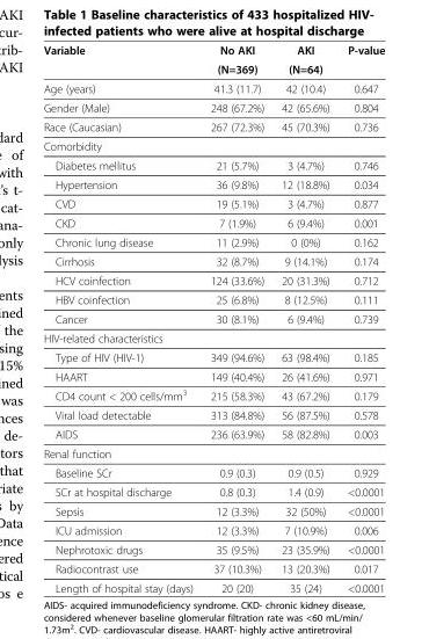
<table><thead><tr><td rowspan="2">Variable</td><td rowspan="2">No AKI (N=369)</td><td rowspan="2">AKI (N=64)</td><td rowspan="2">P-value</td></tr><tr></tr></thead><tbody><tr><td>Age (years)</td><td>41.3 (11.7)</td><td>42 (10.4)</td><td>0.647</td></tr><tr><td>Gender (Male)</td><td>248 (67.2%)</td><td>42 (65.6%)</td><td>0.804</td></tr><tr><td>Race (Caucasian)</td><td>267 (72.3%)</td><td>45 (70.3%)</td><td>0.736</td></tr><tr><td colspan="4">Comorbidity</td></tr><tr><td>Diabetes mellitus</td><td>21 (5.7%)</td><td>3 (4.7%)</td><td>0.746</td></tr><tr><td>Hypertension</td><td>36 (9.8%)</td><td>12 (18.8%)</td><td>0.034</td></tr><tr><td>CVD</td><td>19 (5.1%)</td><td>3 (4.7%)</td><td>0.877</td></tr><tr><td>CKD</td><td>7 (1.9%)</td><td>6 (9.4%)</td><td>0.001</td></tr><tr><td>Chronic lung disease</td><td>11 (2.9%)</td><td>0 (0%)</td><td>0.162</td></tr><tr><td>Cirrhosis</td><td>32 (8.7%)</td><td>9 (14.1%)</td><td>0.174</td></tr><tr><td>HCV coinfection</td><td>124 (33.6%)</td><td>20 (31.3%)</td><td>0.712</td></tr><tr><td>HBV coinfection</td><td>25 (6.8%)</td><td>8 (12.5%)</td><td>0.111</td></tr><tr><td>Cancer</td><td>30 (8.1%)</td><td>6 (9.4%)</td><td>0.739</td></tr><tr><td colspan="4">HIV-related characteristics</td></tr><tr><td>Type of HIV (HIV-1)</td><td>349 (94.6%)</td><td>63 (98.4%)</td><td>0.185</td></tr><tr><td>HAART</td><td>149 (40.4%)</td><td>26 (41.6%)</td><td>0.971</td></tr><tr><td>CD4 count &lt; 200 cells/mm<sup>3</sup></td><td>215 (58.3%)</td><td>43 (67.2%)</td><td>0.179</td></tr><tr><td>Viral load detectable</td><td>313 (84.8%)</td><td>56 (87.5%)</td><td>0.578</td></tr><tr><td>AIDS</td><td>236 (63.9%)</td><td>58 (82.8%)</td><td>0.003</td></tr><tr><td colspan="4">Renal function</td></tr><tr><td>Baseline SCr</td><td>0.9 (0.3)</td><td>0.9 (0.5)</td><td>0.929</td></tr><tr><td>SCr at hospital discharge</td><td>0.8 (0.3)</td><td>1.4 (0.9)</td><td>&lt;0.0001</td></tr><tr><td>Sepsis</td><td>12 (3.3%)</td><td>32 (50%)</td><td>&lt;0.0001</td></tr><tr><td>ICU admission</td><td>12 (3.3%)</td><td>7 (10.9%)</td><td>0.006</td></tr><tr><td>Nephrotoxic drugs</td><td>35 (9.5%)</td><td>23 (35.9%)</td><td>&lt;0.0001</td></tr><tr><td>Radiocontrast use</td><td>37 (10.3%)</td><td>13 (20.3%)</td><td>0.017</td></tr><tr><td>Length of hospital stay (days)</td><td>20 (20)</td><td>35 (24)</td><td>&lt;0.0001</td></tr></tbody></table>